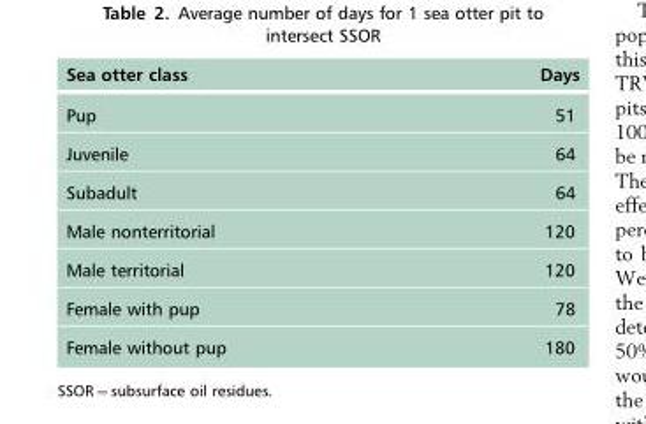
<table><thead><tr><td>Sea otter class</td><td>Days</td></tr></thead><tbody><tr><td>Pup</td><td>51</td></tr><tr><td>Juvenile</td><td>64</td></tr><tr><td>Subadult</td><td>64</td></tr><tr><td>Male nonterritorial</td><td>120</td></tr><tr><td>Male territorial</td><td>120</td></tr><tr><td>Female with pup</td><td>78</td></tr><tr><td>Female without pup</td><td>180</td></tr></tbody></table>